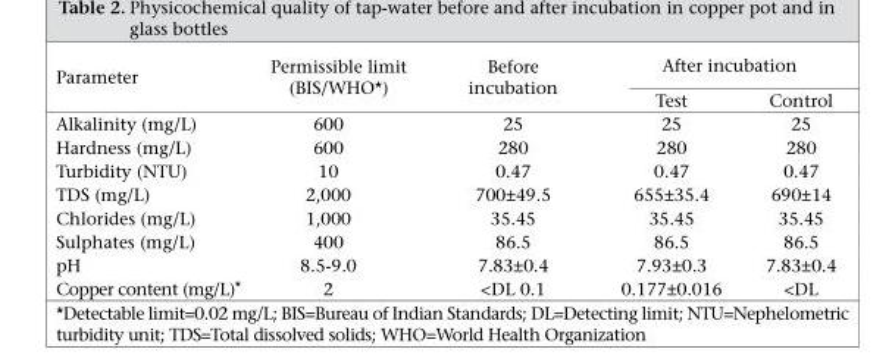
<table><thead><tr><td rowspan="2">Parameter</td><td rowspan="2">Permissible limit (BIS/WHO*)</td><td rowspan="2">Before incubation</td><td colspan="2">After incubation</td></tr><tr><td>Test</td><td>Control</td></tr></thead><tbody><tr><td>Alkalinity (mg/L)</td><td>600</td><td>25</td><td>25</td><td>25</td></tr><tr><td>Hardness (mg/L)</td><td>600</td><td>280</td><td>280</td><td>280</td></tr><tr><td>Turbidity (NTU)</td><td>10</td><td>0.47</td><td>0.47</td><td>0.47</td></tr><tr><td>TDS (mg/L)</td><td>2,000</td><td>700±49.5</td><td>655±35.4</td><td>690±14</td></tr><tr><td>Chlorides (mg/L)</td><td>1,000</td><td>35.45</td><td>35.45</td><td>35.45</td></tr><tr><td>Sulphates (mg/L)</td><td>400</td><td>86.5</td><td>86.5</td><td>86.5</td></tr><tr><td>pH</td><td>8.5-9.0</td><td>7.83±0.4</td><td>7.93±0.3</td><td>7.83±0.4</td></tr><tr><td>Copper content (mg/L)*</td><td>2</td><td>&lt;DL 0.1</td><td>0.177±0.016</td><td>&lt;DL</td></tr></tbody></table>